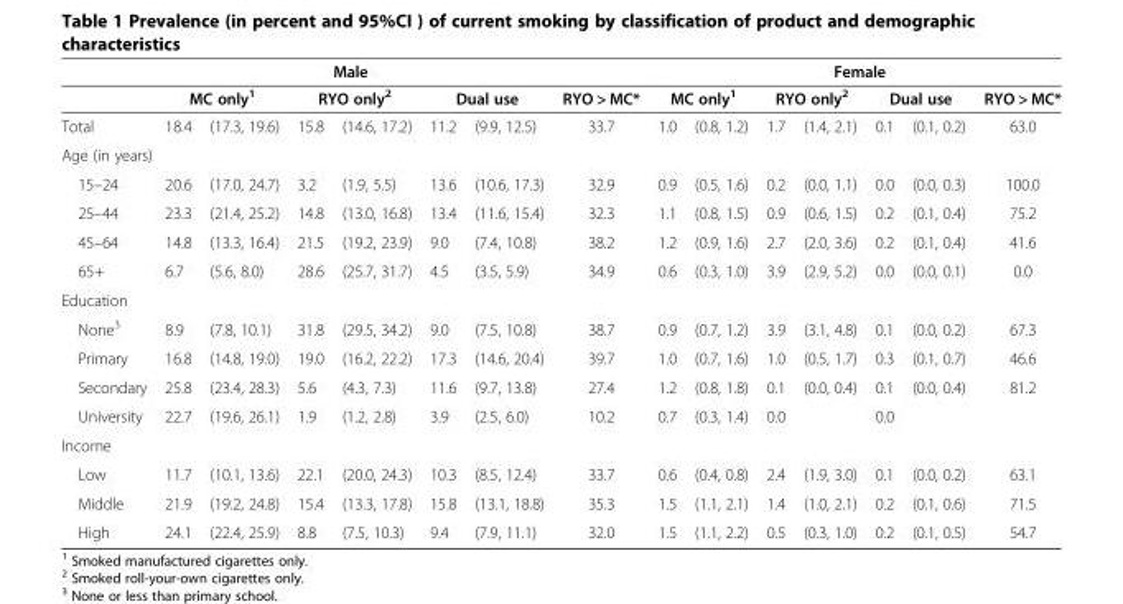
<table><thead><tr><td colspan="8">Male</td><td colspan="7">Female</td></tr><tr><td rowspan="2">Total</td><td colspan="2">MC only<sup>1</sup></td><td colspan="2">RYO only<sup>2</sup></td><td colspan="2">Dual use</td><td rowspan="2">RYO &gt; MC* 33.7</td><td colspan="2">MC only<sup>1</sup></td><td colspan="2">RYO only<sup>2</sup></td><td colspan="2">Dual use</td><td rowspan="2">RYO &gt; MC* 63.0</td></tr><tr><td>18.4</td><td>(17.3, 19.6)</td><td>15.8</td><td>(14.6, 17.2)</td><td>11.2</td><td>(9.9, 12.5)</td><td>1.0</td><td>(0.8, 1.2)</td><td>1.7</td><td>(1.4, 2.1)</td><td>0.1</td><td>(0.1, 0.2)</td></tr></thead><tbody><tr><td colspan="15">Age (in years)</td></tr><tr><td>15–24</td><td>20.6</td><td>(17.0, 24.7)</td><td>3.2</td><td>(1.9, 5.5)</td><td>13.6</td><td>(10.6, 17.3)</td><td>32.9</td><td>0.9</td><td>(0.5, 1.6)</td><td>0.2</td><td>(0.0, 1.1)</td><td>0.0</td><td>(0.0, 0.3)</td><td>100.0</td></tr><tr><td>25–44</td><td>23.3</td><td>(21.4, 25.2)</td><td>14.8</td><td>(13.0, 16.8)</td><td>13.4</td><td>(11.6, 15.4)</td><td>32.3</td><td>1.1</td><td>(0.8, 1.5)</td><td>0.9</td><td>(0.6, 1.5)</td><td>0.2</td><td>(0.1, 0.4)</td><td>75.2</td></tr><tr><td>45–64</td><td>14.8</td><td>(13.3, 16.4)</td><td>21.5</td><td>(19.2, 23.9)</td><td>9.0</td><td>(7.4, 10.8)</td><td>38.2</td><td>1.2</td><td>(0.9, 1.6)</td><td>2.7</td><td>(2.0, 3.6)</td><td>0.2</td><td>(0.1, 0.4)</td><td>41.6</td></tr><tr><td>65+</td><td>6.7</td><td>(5.6, 8.0)</td><td>28.6</td><td>(25.7, 31.7)</td><td>4.5</td><td>(3.5, 5.9)</td><td>34.9</td><td>0.6</td><td>(0.3, 1.0)</td><td>3.9</td><td>(2.9, 5.2)</td><td>0.0</td><td>(0.0, 0.1)</td><td>0.0</td></tr><tr><td colspan="15">Education</td></tr><tr><td>None<sup>3</sup></td><td>8.9</td><td>(7.8, 10.1)</td><td>31.8</td><td>(29.5, 34.2)</td><td>9.0</td><td>(7.5, 10.8)</td><td>38.7</td><td>0.9</td><td>(0.7, 1.2)</td><td>3.9</td><td>(3.1, 4.8)</td><td>0.1</td><td>(0.0, 0.2)</td><td>67.3</td></tr><tr><td>Primary</td><td>16.8</td><td>(14.8, 19.0)</td><td>19.0</td><td>(16.2, 22.2)</td><td>17.3</td><td>(14.6, 20.4)</td><td>39.7</td><td>1.0</td><td>(0.7, 1.6)</td><td>1.0</td><td>(0.5, 1.7)</td><td>0.3</td><td>(0.1, 0.7)</td><td>46.6</td></tr><tr><td>Secondary</td><td>25.8</td><td>(23.4, 28.3)</td><td>5.6</td><td>(4.3, 7.3)</td><td>11.6</td><td>(9.7, 13.8)</td><td>27.4</td><td>1.2</td><td>(0.8, 1.8)</td><td>0.1</td><td>(0.0, 0.4)</td><td>0.1</td><td>(0.0, 0.4)</td><td>81.2</td></tr><tr><td>University</td><td>22.7</td><td>(19.6, 26.1)</td><td>1.9</td><td>(1.2, 2.8)</td><td>3.9</td><td>(2.5, 6.0)</td><td>10.2</td><td>0.7</td><td>(0.3, 1.4)</td><td>0.0</td><td></td><td>0.0</td><td></td><td></td></tr><tr><td colspan="15">Income</td></tr><tr><td>Low</td><td>11.7</td><td>(10.1, 13.6)</td><td>22.1</td><td>(20.0, 24.3)</td><td>10.3</td><td>(8.5, 12.4)</td><td>33.7</td><td>0.6</td><td>(0.4, 0.8)</td><td>2.4</td><td>(1.9, 3.0)</td><td>0.1</td><td>(0.0, 0.2)</td><td>63.1</td></tr><tr><td>Middle</td><td>21.9</td><td>(19.2, 24.8)</td><td>15.4</td><td>(13.3, 17.8)</td><td>15.8</td><td>(13.1, 18.8)</td><td>35.3</td><td>1.5</td><td>(1.1, 2.1)</td><td>1.4</td><td>(1.0, 2.1)</td><td>0.2</td><td>(0.1, 0.6)</td><td>71.5</td></tr><tr><td>High</td><td>24.1</td><td>(22.4, 25.9)</td><td>8.8</td><td>(7.5, 10.3)</td><td>9.4</td><td>(7.9, 11.1)</td><td>32.0</td><td>1.5</td><td>(1.1, 2.2)</td><td>0.5</td><td>(0.3, 1.0)</td><td>0.2</td><td>(0.1, 0.5)</td><td>54.7</td></tr></tbody></table>